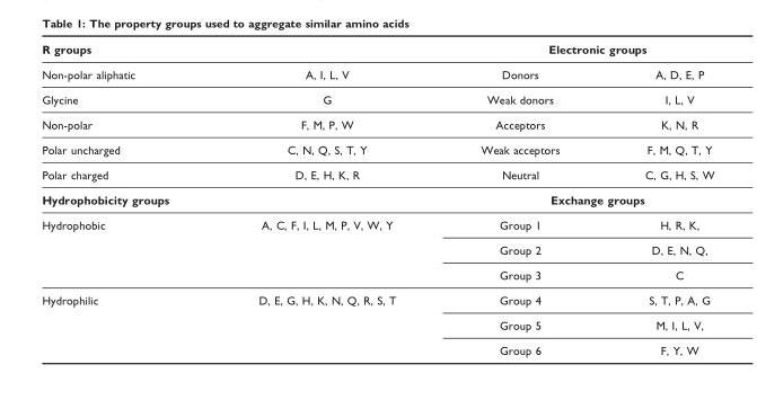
<table><thead><tr><td colspan="2">R groups</td><td colspan="2">Electronic groups</td></tr><tr><td>Non-polar aliphatic</td><td>A, I, L, V</td><td>Donors</td><td>A, D, E, P</td></tr></thead><tbody><tr><td>Glycine</td><td>G</td><td>Weak donors</td><td>I, L, V</td></tr><tr><td>Non-polar</td><td>F, M, P, W</td><td>Acceptors</td><td>K, N, R</td></tr><tr><td>Polar uncharged</td><td>C, N, Q, S, T, Y</td><td>Weak acceptors</td><td>F, M, Q, T, Y</td></tr><tr><td>Polar charged</td><td>D, E, H, K, R</td><td>Neutral</td><td>C, G, H, S, W</td></tr><tr><td colspan="2">Hydrophobicity groups</td><td colspan="2">Exchange groups</td></tr><tr><td rowspan="3">Hydrophobic</td><td>A, C, F, I, L, M, P, V, W, Y</td><td>Group 1</td><td>H, R, K,</td></tr><tr><td></td><td>Group 2</td><td>D, E, N, Q,</td></tr><tr><td></td><td>Group 3</td><td>C</td></tr><tr><td rowspan="3">Hydrophilic</td><td>D, E, G, H, K, N, Q, R, S, T</td><td>Group 4</td><td>S, T, P, A, G</td></tr><tr><td></td><td>Group 5</td><td>M, I, L, V,</td></tr><tr><td></td><td>Group 6</td><td>F, Y, W</td></tr></tbody></table>